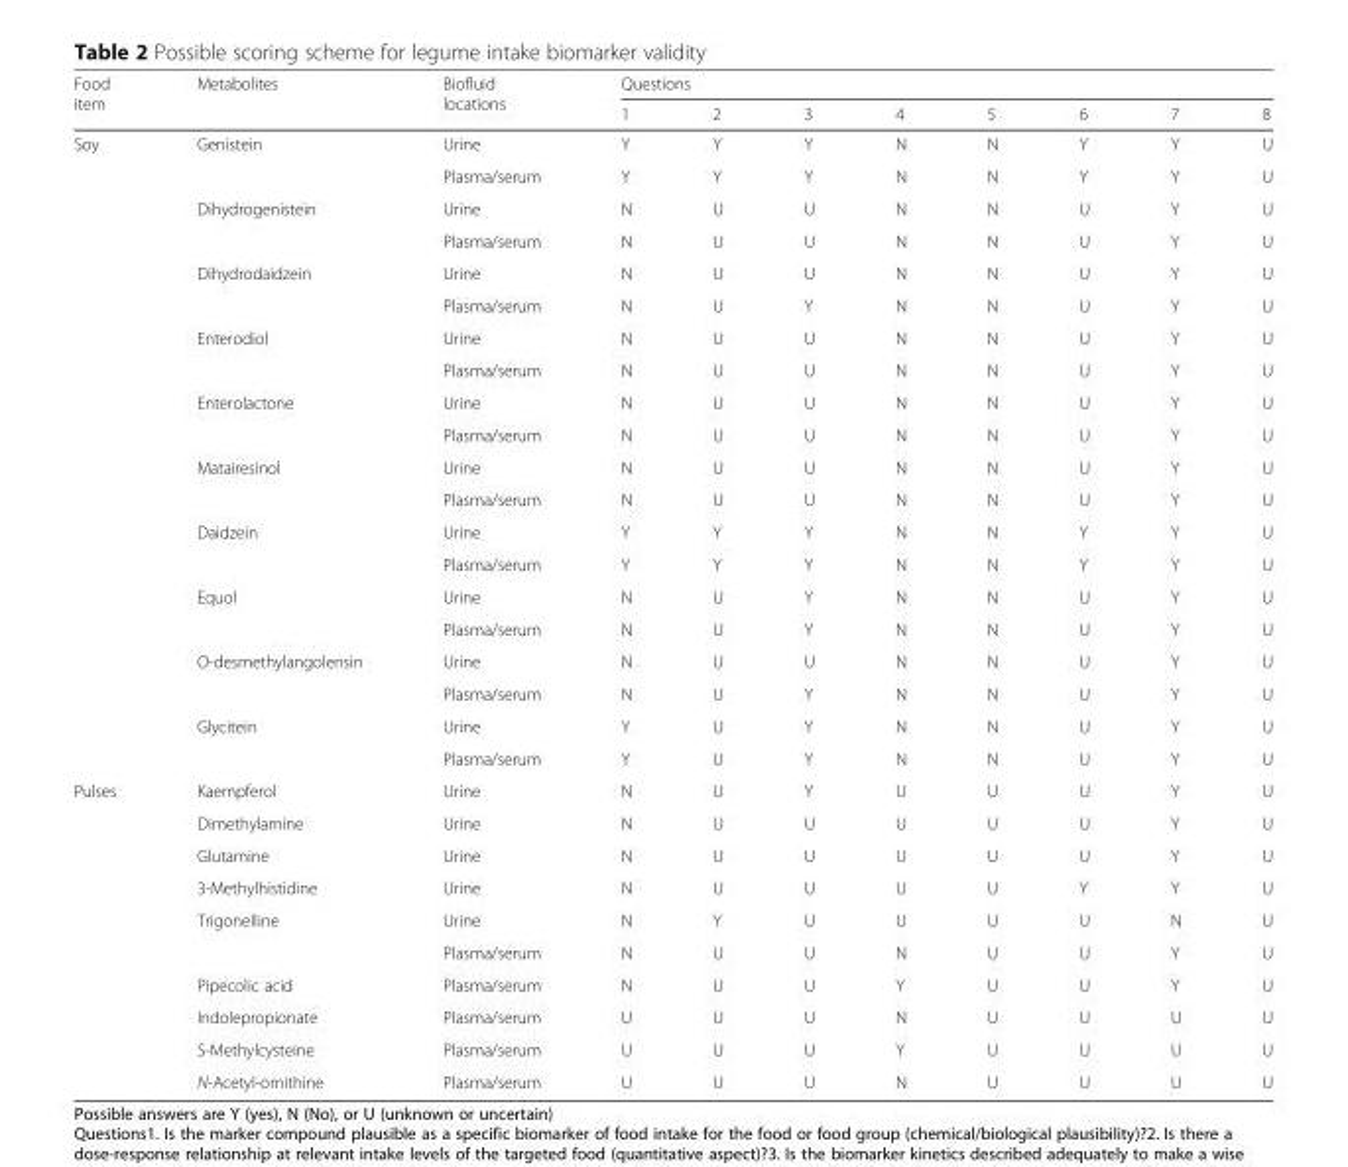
<table><thead><tr><td rowspan="2">Food item</td><td rowspan="2">Metabolites</td><td rowspan="2">Biofluid locations</td><td colspan="8">Questions</td></tr><tr><td>1</td><td>2</td><td>3</td><td>4</td><td>5</td><td>6</td><td>7</td><td>8</td></tr></thead><tbody><tr><td rowspan="20">Soy</td><td rowspan="2">Genistein</td><td>Urine</td><td>Y</td><td>Y</td><td>Y</td><td>N</td><td>N</td><td>Y</td><td>Y</td><td>U</td></tr><tr><td>Plasma/serum</td><td>Y</td><td>Y</td><td>Y</td><td>N</td><td>N</td><td>Y</td><td>Y</td><td>U</td></tr><tr><td rowspan="2">Dihydrogenistein</td><td>Urine</td><td>N</td><td>U</td><td>U</td><td>N</td><td>N</td><td>U</td><td>Y</td><td>U</td></tr><tr><td>Plasma/serum</td><td>N</td><td>U</td><td>U</td><td>N</td><td>N</td><td>U</td><td>Y</td><td>U</td></tr><tr><td rowspan="2">Dihydrodaidzein</td><td>Urine</td><td>N</td><td>U</td><td>U</td><td>N</td><td>N</td><td>U</td><td>Y</td><td>U</td></tr><tr><td>Plasma/serum</td><td>N</td><td>U</td><td>Y</td><td>N</td><td>N</td><td>U</td><td>Y</td><td>U</td></tr><tr><td rowspan="2">Enterodiol</td><td>Urine</td><td>N</td><td>U</td><td>U</td><td>N</td><td>N</td><td>U</td><td>Y</td><td>U</td></tr><tr><td>Plasma/serum</td><td>N</td><td>U</td><td>U</td><td>N</td><td>N</td><td>U</td><td>Y</td><td>U</td></tr><tr><td rowspan="2">Enterolactone</td><td>Urine</td><td>N</td><td>U</td><td>U</td><td>N</td><td>N</td><td>U</td><td>Y</td><td>U</td></tr><tr><td>Plasma/serum</td><td>N</td><td>U</td><td>U</td><td>N</td><td>N</td><td>U</td><td>Y</td><td>U</td></tr><tr><td rowspan="2">Matairesinol</td><td>Urine</td><td>N</td><td>U</td><td>U</td><td>N</td><td>N</td><td>U</td><td>Y</td><td>U</td></tr><tr><td>Plasma/serum</td><td>N</td><td>U</td><td>U</td><td>N</td><td>N</td><td>U</td><td>Y</td><td>U</td></tr><tr><td rowspan="2">Daidzein</td><td>Urine</td><td>Y</td><td>Y</td><td>Y</td><td>N</td><td>N</td><td>Y</td><td>Y</td><td>U</td></tr><tr><td>Plasma/serum</td><td>Y</td><td>Y</td><td>Y</td><td>N</td><td>N</td><td>Y</td><td>Y</td><td>U</td></tr><tr><td rowspan="2">Equol</td><td>Urine</td><td>N</td><td>U</td><td>Y</td><td>N</td><td>N</td><td>U</td><td>Y</td><td>U</td></tr><tr><td>Plasma/serum</td><td>N</td><td>U</td><td>Y</td><td>N</td><td>N</td><td>U</td><td>Y</td><td>U</td></tr><tr><td rowspan="2">O-desmethylangolensin</td><td>Urine</td><td>N</td><td>U</td><td>U</td><td>N</td><td>N</td><td>U</td><td>Y</td><td>U</td></tr><tr><td>Plasma/serum</td><td>N</td><td>U</td><td>Y</td><td>N</td><td>N</td><td>U</td><td>Y</td><td>U</td></tr><tr><td rowspan="2">Glycitein</td><td>Urine</td><td>Y</td><td>U</td><td>Y</td><td>N</td><td>N</td><td>U</td><td>Y</td><td>U</td></tr><tr><td>Plasma/serum</td><td>Y</td><td>U</td><td>Y</td><td>N</td><td>N</td><td>U</td><td>Y</td><td>U</td></tr><tr><td rowspan="10">Pulses</td><td>Kaempferol</td><td>Urine</td><td>N</td><td>U</td><td>Y</td><td>U</td><td>U</td><td>U</td><td>Y</td><td>U</td></tr><tr><td>Dimethylamine</td><td>Urine</td><td>N</td><td>U</td><td>U</td><td>U</td><td>U</td><td>U</td><td>Y</td><td>U</td></tr><tr><td>Glutamine</td><td>Urine</td><td>N</td><td>U</td><td>U</td><td>U</td><td>U</td><td>U</td><td>Y</td><td>U</td></tr><tr><td>3-Methylhistidine</td><td>Urine</td><td>N</td><td>U</td><td>U</td><td>U</td><td>U</td><td>Y</td><td>Y</td><td>U</td></tr><tr><td>Trigonelline</td><td>Urine</td><td>N</td><td>Y</td><td>U</td><td>U</td><td>U</td><td>U</td><td>N</td><td>U</td></tr><tr><td></td><td>Plasma/serum</td><td>N</td><td>U</td><td>U</td><td>N</td><td>U</td><td>U</td><td>Y</td><td>U</td></tr><tr><td>Pipecolic acid</td><td>Plasma/serum</td><td>N</td><td>U</td><td>U</td><td>Y</td><td>U</td><td>U</td><td>Y</td><td>U</td></tr><tr><td>Indolepropionate</td><td>Plasma/serum</td><td>U</td><td>U</td><td>U</td><td>N</td><td>U</td><td>U</td><td>U</td><td>U</td></tr><tr><td>S-Methylcysteine</td><td>Plasma/serum</td><td>U</td><td>U</td><td>U</td><td>Y</td><td>U</td><td>U</td><td>U</td><td>U</td></tr><tr><td>N-Acetyl-ornithine</td><td>Plasma/serum</td><td>U</td><td>U</td><td>U</td><td>N</td><td>U</td><td>U</td><td>U</td><td>U</td></tr></tbody></table>